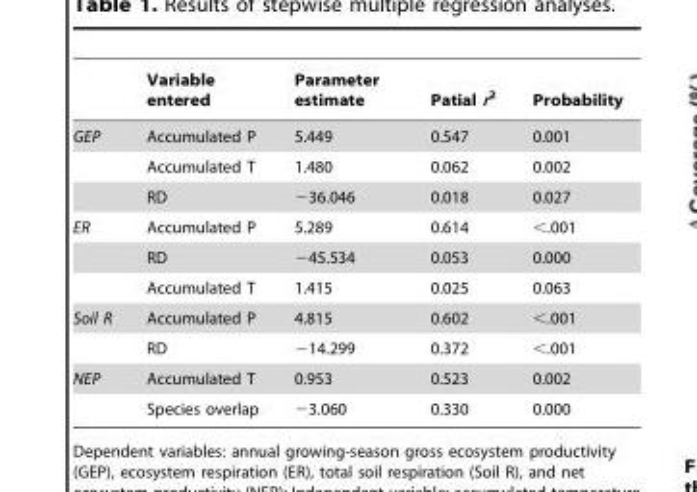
<table><thead><tr><td></td><td>Variable entered</td><td>Parameter estimate</td><td>Patial r<sup>2</sup></td><td>Probability</td></tr></thead><tbody><tr><td rowspan="3">GEP</td><td>Accumulated P</td><td>5.449</td><td>0.547</td><td>0.001</td></tr><tr><td>Accumulated T</td><td>1.480</td><td>0.062</td><td>0.002</td></tr><tr><td>RD</td><td>−36.046</td><td>0.018</td><td>0.027</td></tr><tr><td rowspan="3">ER</td><td>Accumulated P</td><td>5.289</td><td>0.614</td><td>&lt;.001</td></tr><tr><td>RD</td><td>−45.534</td><td>0.053</td><td>0.000</td></tr><tr><td>Accumulated T</td><td>1.415</td><td>0.025</td><td>0.063</td></tr><tr><td rowspan="2">Soil R</td><td>Accumulated P</td><td>4.815</td><td>0.602</td><td>&lt;.001</td></tr><tr><td>RD</td><td>−14.299</td><td>0.372</td><td>&lt;.001</td></tr><tr><td rowspan="2">NEP</td><td>Accumulated T</td><td>0.953</td><td>0.523</td><td>0.002</td></tr><tr><td>Species overlap</td><td>−3.060</td><td>0.330</td><td>0.000</td></tr></tbody></table>